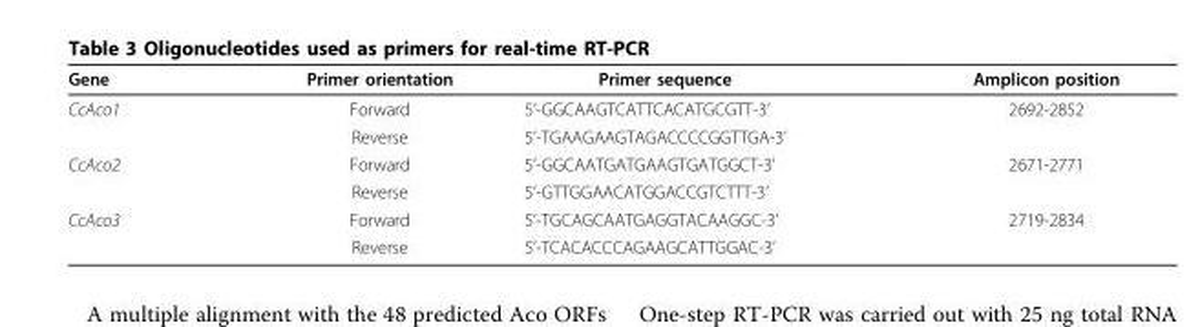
<table><thead><tr><td>Gene</td><td>Primer orientation</td><td>Primer sequence</td><td>Amplicon position</td></tr></thead><tbody><tr><td rowspan="2">CcAco1</td><td>Forward</td><td>5’-GGCAAGTCATTCACATGCGTT-3’</td><td>2692-2852</td></tr><tr><td>Reverse</td><td>5’-TGAAGAAGTAGACCCCGGTTGA-3’</td><td></td></tr><tr><td rowspan="2">CcAco2</td><td>Forward</td><td>5’-GGCAATGATGAAGTGATGGCT-3’</td><td>2671-2771</td></tr><tr><td>Reverse</td><td>5’-GTTGGAACATGGACCGTCTTT-3’</td><td></td></tr><tr><td rowspan="2">CcAco3</td><td>Forward</td><td>5’-TGCAGCAATGAGGTACAAGGC-3’</td><td>2719-2834</td></tr><tr><td>Reverse</td><td>5’-TCACACCCAGAAGCATTGGAC-3’</td><td></td></tr></tbody></table>